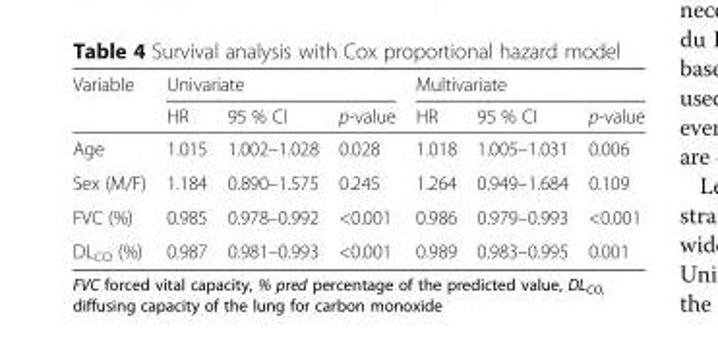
<table><thead><tr><td rowspan="2">Variable</td><td colspan="3">Univariate</td><td colspan="3">Multivariate</td></tr><tr><td>HR</td><td>95 % CI</td><td>p-value</td><td>HR</td><td>95 % CI</td><td>p-value</td></tr></thead><tbody><tr><td>Age</td><td>1.015</td><td>1.002–1.028</td><td>0.028</td><td>1.018</td><td>1.005–1.031</td><td>0.006</td></tr><tr><td>Sex (M/F)</td><td>1.184</td><td>0.890–1.575</td><td>0.245</td><td>1.264</td><td>0.949–1.684</td><td>0.109</td></tr><tr><td>FVC (%)</td><td>0.985</td><td>0.978–0.992</td><td>&lt;0.001</td><td>0.986</td><td>0.979–0.993</td><td>&lt;0.001</td></tr><tr><td>DL<sub>CO</sub> (%)</td><td>0.987</td><td>0.981–0.993</td><td>&lt;0.001</td><td>0.989</td><td>0.983–0.995</td><td>0.001</td></tr></tbody></table>